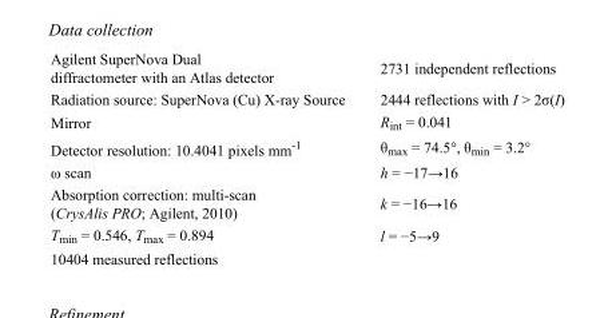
<table><tbody><tr><td>Agilent SuperNova Dual diffractometer with an Atlas detector</td><td>2731 independent reflections</td></tr><tr><td>Radiation source: SuperNova (Cu) X-ray Source</td><td>2444 reflections with I &gt; 2σ(I)</td></tr><tr><td>Mirror</td><td>R<sub>int</sub> = 0.041</td></tr><tr><td>Detector resolution: 10.4041 pixels mm<sup>-1</sup></td><td>θ<sub>max</sub> = 74.5°, θ<sub>min</sub> = 3.2°</td></tr><tr><td>ω scan</td><td>h = −17→16</td></tr><tr><td>Absorption correction: multi-scan (CrysAlis PRO; Agilent, 2010)</td><td>k = −16→16</td></tr><tr><td>T<sub>min</sub> = 0.546, T<sub>max</sub> = 0.894</td><td>l = −5→9</td></tr><tr><td>10404 measured reflections</td><td></td></tr></tbody></table>